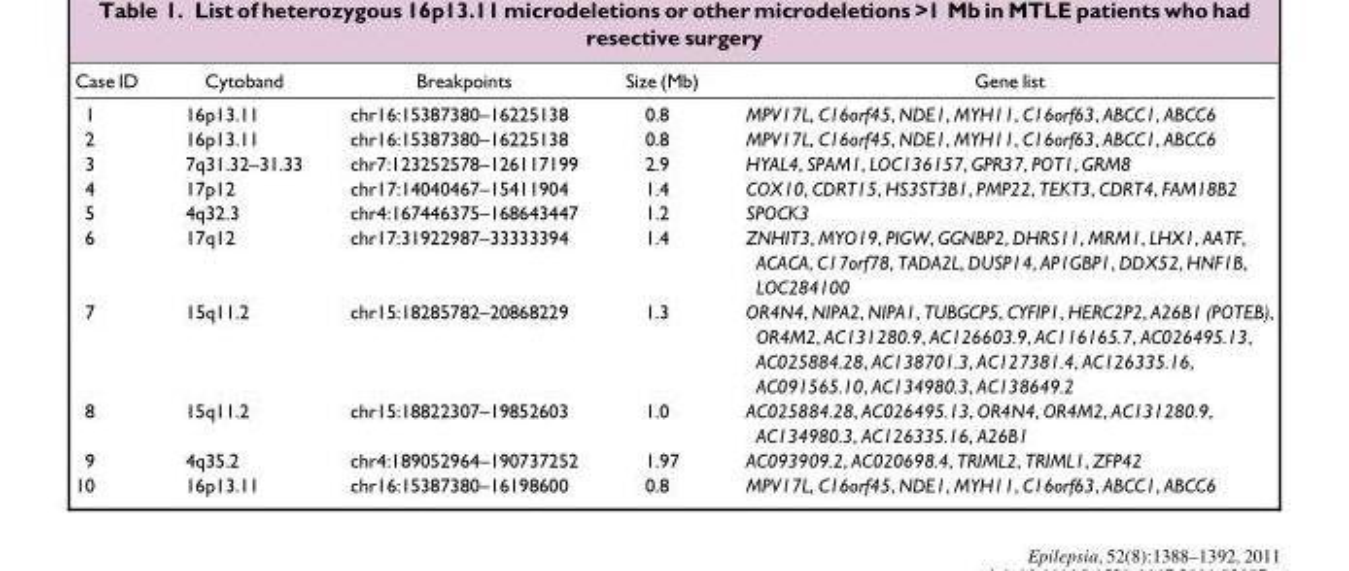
<table><thead><tr><td>Case ID</td><td>Cytoband</td><td>Breakpoints</td><td>Size (Mb)</td><td>Gene list</td></tr></thead><tbody><tr><td>1</td><td>16p13.11</td><td>chr16:15387380–16225138</td><td>0.8</td><td>MPV17L, C16orf45, NDE1, MYH11, C16orf63, ABCC1, ABCC6</td></tr><tr><td>2</td><td>16p13.11</td><td>chr16:15387380–16225138</td><td>0.8</td><td>MPV17L, C16orf45, NDE1, MYH11, C16orf63, ABCC1, ABCC6</td></tr><tr><td>3</td><td>7q31.32–31.33</td><td>chr7:123252578–126117199</td><td>2.9</td><td>HYAL4, SPAM1, LOC136157, GPR37, POT1, GRM8</td></tr><tr><td>4</td><td>17p12</td><td>chr17:14040467–15411904</td><td>1.4</td><td>COX10, CDRT15, HS3ST3B1, PMP22, TEKT3, CDRT4, FAM18B2</td></tr><tr><td>5</td><td>4q32.3</td><td>chr4:167446375–168643447</td><td>1.2</td><td>SPOCK3</td></tr><tr><td>6</td><td>17q12</td><td>chr17:31922987–33333394</td><td>1.4</td><td>ZNHIT3, MYO19, PIGW, GGNBP2, DHRS11, MRM1, LHX1, AATF, ACACA, C17orf78, TADA2L, DUSP14, AP1GBP1, DDX52, HNF1B, LOC284100</td></tr><tr><td>7</td><td>15q11.2</td><td>chr15:18285782–20868229</td><td>1.3</td><td>OR4N4, NIPA2, NIPA1, TUBGCP5, CYFIP1, HERC2P2, A26B1 (POTEB), OR4M2, AC131280.9, AC126603.9, AC116165.7, AC026495.13, AC025884.28, AC138701.3, AC127381.4, AC126335.16, AC091565.10, AC134980.3, AC138649.2</td></tr><tr><td>8</td><td>15q11.2</td><td>chr15:18822307–19852603</td><td>1.0</td><td>AC025884.28, AC026495.13, OR4N4, OR4M2, AC131280.9, AC134980.3, AC126335.16, A26B1</td></tr><tr><td>9</td><td>4q35.2</td><td>chr4:189052964–190737252</td><td>1.97</td><td>AC093909.2, AC020698.4, TRIML2, TRIML1, ZFP42</td></tr><tr><td>10</td><td>16p13.11</td><td>chr16:15387380–16198600</td><td>0.8</td><td>MPV17L, C16orf45, NDE1, MYH11, C16orf63, ABCC1, ABCC6</td></tr></tbody></table>